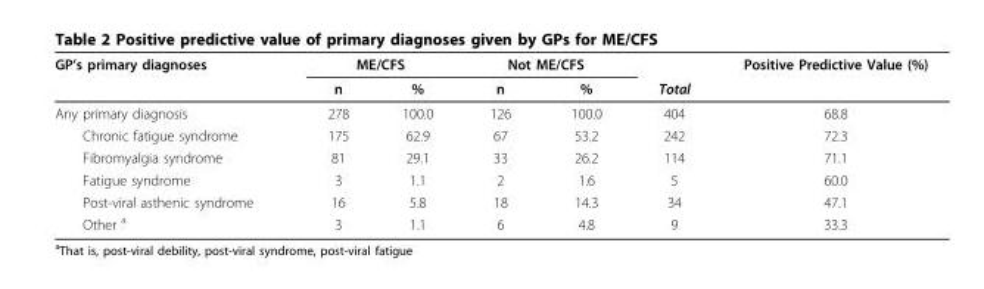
<table><thead><tr><td rowspan="2">GP’s primary diagnoses</td><td colspan="2">ME/CFS</td><td colspan="2">Not ME/CFS</td><td rowspan="2">Total</td><td rowspan="2">Positive Predictive Value (%)</td></tr><tr><td>n</td><td>%</td><td>n</td><td>%</td></tr></thead><tbody><tr><td>Any primary diagnosis</td><td>278</td><td>100.0</td><td>126</td><td>100.0</td><td>404</td><td>68.8</td></tr><tr><td>Chronic fatigue syndrome</td><td>175</td><td>62.9</td><td>67</td><td>53.2</td><td>242</td><td>72.3</td></tr><tr><td>Fibromyalgia syndrome</td><td>81</td><td>29.1</td><td>33</td><td>26.2</td><td>114</td><td>71.1</td></tr><tr><td>Fatigue syndrome</td><td>3</td><td>1.1</td><td>2</td><td>1.6</td><td>5</td><td>60.0</td></tr><tr><td>Post-viral asthenic syndrome</td><td>16</td><td>5.8</td><td>18</td><td>14.3</td><td>34</td><td>47.1</td></tr><tr><td>Other <sup>a</sup></td><td>3</td><td>1.1</td><td>6</td><td>4.8</td><td>9</td><td>33.3</td></tr></tbody></table>